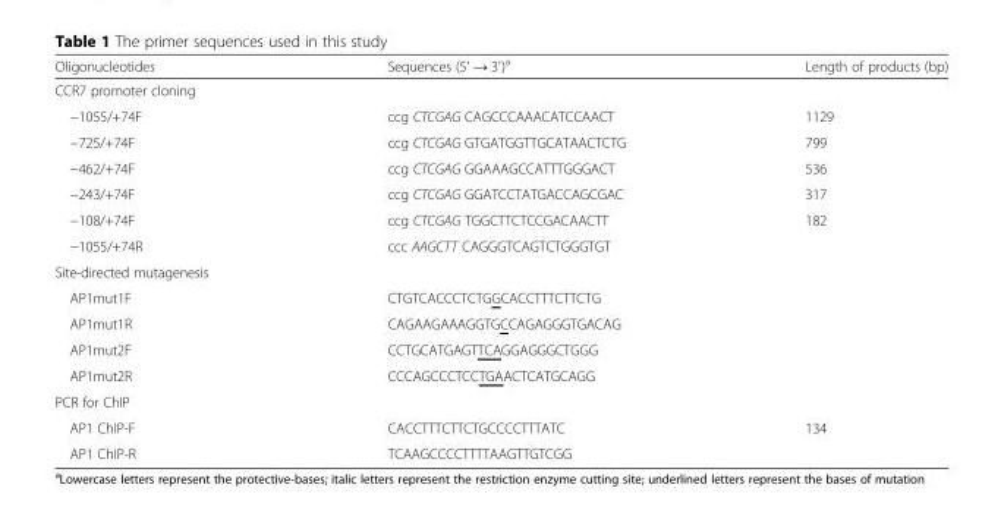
<table><thead><tr><td>Oligonucleotides</td><td>Sequences (5′ → 3′)<sup>a</sup></td><td>Length of products (bp)</td></tr></thead><tbody><tr><td colspan="3">CCR7 promoter cloning</td></tr><tr><td>−1055/+74F</td><td>ccg CTCGAG CAGCCCAAACATCCAACT</td><td>1129</td></tr><tr><td>−725/+74F</td><td>ccg CTCGAG GTGATGGTTGCATAACTCTG</td><td>799</td></tr><tr><td>−462/+74F</td><td>ccg CTCGAG GGAAAGCCATTTGGGACT</td><td>536</td></tr><tr><td>−243/+74F</td><td>ccg CTCGAG GGATCCTATGACCAGCGAC</td><td>317</td></tr><tr><td>−108/+74F</td><td>ccg CTCGAG TGGCTTCTCCGACAACTT</td><td>182</td></tr><tr><td>−1055/+74R</td><td>ccc AAGCTT CAGGGTCAGTCTGGGTGT</td><td></td></tr><tr><td colspan="3">Site-directed mutagenesis</td></tr><tr><td>AP1mut1F</td><td>CTGTCACCCTCTGGCACCTTTCTTCTG</td><td></td></tr><tr><td>AP1mut1R</td><td>CAGAAGAAAGGTGCCAGAGGGTGACAG</td><td></td></tr><tr><td>AP1mut2F</td><td>CCTGCATGAGTTCAGGAGGGCTGGG</td><td></td></tr><tr><td>AP1mut2R</td><td>CCCAGCCCTCCTGAACTCATGCAGG</td><td></td></tr><tr><td colspan="3">PCR for ChIP</td></tr><tr><td>AP1 ChIP-F</td><td>CACCTTTCTTCTGCCCCTTTATC</td><td rowspan="2">134</td></tr><tr><td>AP1 ChIP-R</td><td>TCAAGCCCCTTTTAAGTTGTCGG</td></tr></tbody></table>